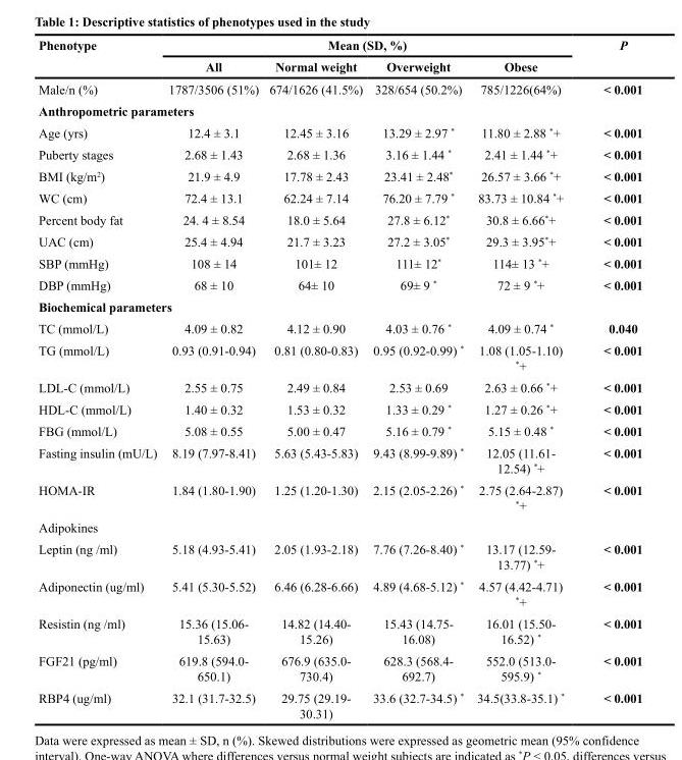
<table><thead><tr><td rowspan="2">Phenotype</td><td colspan="4">Mean (SD, %)</td><td rowspan="2">P</td></tr><tr><td>All</td><td>Normal weight</td><td>Overweight</td><td>Obese</td></tr></thead><tbody><tr><td>Male/n (%)</td><td>1787/3506 (51%)</td><td>674/1626 (41.5%)</td><td>328/654 (50.2%)</td><td>785/1226(64%)</td><td>&lt; 0.001</td></tr><tr><td colspan="6">Anthropometric parameters</td></tr><tr><td>Age (yrs)</td><td>12.4 ± 3.1</td><td>12.45 ± 3.16</td><td>13.29 ± 2.97 *</td><td>11.80 ± 2.88 *+</td><td>&lt; 0.001</td></tr><tr><td>Puberty stages</td><td>2.68 ± 1.43</td><td>2.68 ± 1.36</td><td>3.16 ± 1.44 *</td><td>2.41 ± 1.44 *+</td><td>&lt; 0.001</td></tr><tr><td>BMI (kg/m<sup>2</sup>)</td><td>21.9 ± 4.9</td><td>17.78 ± 2.43</td><td>23.41 ± 2.48*</td><td>26.57 ± 3.66 *+</td><td>&lt; 0.001</td></tr><tr><td>WC (cm)</td><td>72.4 ± 13.1</td><td>62.24 ± 7.14</td><td>76.20 ± 7.79 *</td><td>83.73 ± 10.84 *+</td><td>&lt; 0.001</td></tr><tr><td>Percent body fat</td><td>24. 4 ± 8.54</td><td>18.0 ± 5.64</td><td>27.8 ± 6.12*</td><td>30.8 ± 6.66*+</td><td>&lt; 0.001</td></tr><tr><td>UAC (cm)</td><td>25.4 ± 4.94</td><td>21.7 ± 3.23</td><td>27.2 ± 3.05*</td><td>29.3 ± 3.95*+</td><td>&lt; 0.001</td></tr><tr><td>SBP (mmHg)</td><td>108 ± 14</td><td>101± 12</td><td>111± 12*</td><td>114± 13 *+</td><td>&lt; 0.001</td></tr><tr><td>DBP (mmHg)</td><td>68 ± 10</td><td>64± 10</td><td>69± 9 *</td><td>72 ± 9 *+</td><td>&lt; 0.001</td></tr><tr><td colspan="6">Biochemical parameters</td></tr><tr><td>TC (mmol/L)</td><td>4.09 ± 0.82</td><td>4.12 ± 0.90</td><td>4.03 ± 0.76 *</td><td>4.09 ± 0.74 *</td><td>0.040</td></tr><tr><td>TG (mmol/L)</td><td>0.93 (0.91-0.94)</td><td>0.81 (0.80-0.83)</td><td>0.95 (0.92-0.99) *</td><td>1.08 (1.05-1.10) *+</td><td>&lt; 0.001</td></tr><tr><td>LDL-C (mmol/L)</td><td>2.55 ± 0.75</td><td>2.49 ± 0.84</td><td>2.53 ± 0.69</td><td>2.63 ± 0.66 *+</td><td>&lt; 0.001</td></tr><tr><td>HDL-C (mmol/L)</td><td>1.40 ± 0.32</td><td>1.53 ± 0.32</td><td>1.33 ± 0.29 *</td><td>1.27 ± 0.26 *+</td><td>&lt; 0.001</td></tr><tr><td>FBG (mmol/L)</td><td>5.08 ± 0.55</td><td>5.00 ± 0.47</td><td>5.16 ± 0.79 *</td><td>5.15 ± 0.48 *</td><td>&lt; 0.001</td></tr><tr><td>Fasting insulin (mU/L)</td><td>8.19 (7.97-8.41)</td><td>5.63 (5.43-5.83)</td><td>9.43 (8.99-9.89) *</td><td>12.05 (11.61- 12.54) *+</td><td>&lt; 0.001</td></tr><tr><td>HOMA-IR</td><td>1.84 (1.80-1.90)</td><td>1.25 (1.20-1.30)</td><td>2.15 (2.05-2.26) *</td><td>2.75 (2.64-2.87) *+</td><td>&lt; 0.001</td></tr><tr><td colspan="6">Adipokines</td></tr><tr><td>Leptin (ng /ml)</td><td>5.18 (4.93-5.41)</td><td>2.05 (1.93-2.18)</td><td>7.76 (7.26-8.40) *</td><td>13.17 (12.59- 13.77) *+</td><td>&lt; 0.001</td></tr><tr><td>Adiponectin (ug/ml)</td><td>5.41 (5.30-5.52)</td><td>6.46 (6.28-6.66)</td><td>4.89 (4.68-5.12) *</td><td>4.57 (4.42-4.71) *+</td><td>&lt; 0.001</td></tr><tr><td>Resistin (ng /ml)</td><td>15.36 (15.06- 15.63)</td><td>14.82 (14.40- 15.26)</td><td>15.43 (14.75- 16.08)</td><td>16.01 (15.50- 16.52) *</td><td>&lt; 0.001</td></tr><tr><td>FGF21 (pg/ml)</td><td>619.8 (594.0- 650.1)</td><td>676.9 (635.0- 730.4)</td><td>628.3 (568.4- 692.7)</td><td>552.0 (513.0- 595.9) *</td><td>&lt; 0.001</td></tr><tr><td>RBP4 (ug/ml)</td><td>32.1 (31.7-32.5)</td><td>29.75 (29.19- 30.31)</td><td>33.6 (32.7-34.5) *</td><td>34.5(33.8-35.1) *</td><td>&lt; 0.001</td></tr></tbody></table>